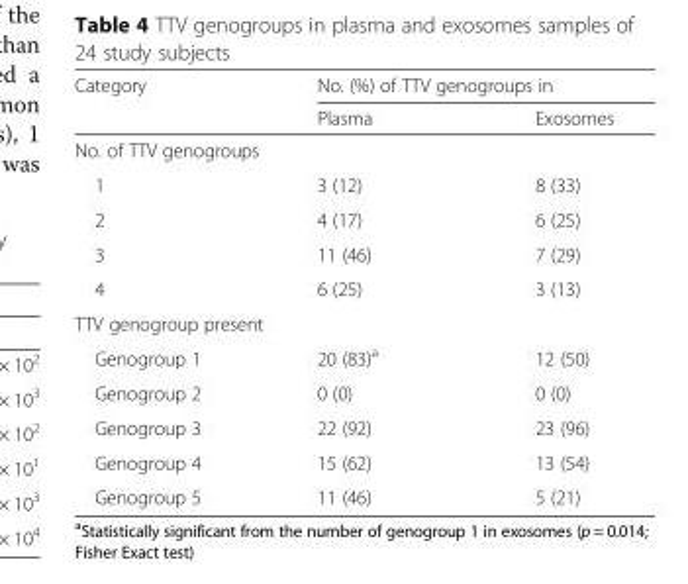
<table><thead><tr><td rowspan="2">Category</td><td colspan="2">No. (%) of TTV genogroups in</td></tr><tr><td>Plasma</td><td>Exosomes</td></tr></thead><tbody><tr><td colspan="3">No. of TTV genogroups</td></tr><tr><td>1</td><td>3 (12)</td><td>8 (33)</td></tr><tr><td>2</td><td>4 (17)</td><td>6 (25)</td></tr><tr><td>3</td><td>11 (46)</td><td>7 (29)</td></tr><tr><td>4</td><td>6 (25)</td><td>3 (13)</td></tr><tr><td colspan="3">TTV genogroup present</td></tr><tr><td>Genogroup 1</td><td>20 (83)<sup>a</sup></td><td>12 (50)</td></tr><tr><td>Genogroup 2</td><td>0 (0)</td><td>0 (0)</td></tr><tr><td>Genogroup 3</td><td>22 (92)</td><td>23 (96)</td></tr><tr><td>Genogroup 4</td><td>15 (62)</td><td>13 (54)</td></tr><tr><td>Genogroup 5</td><td>11 (46)</td><td>5 (21)</td></tr></tbody></table>